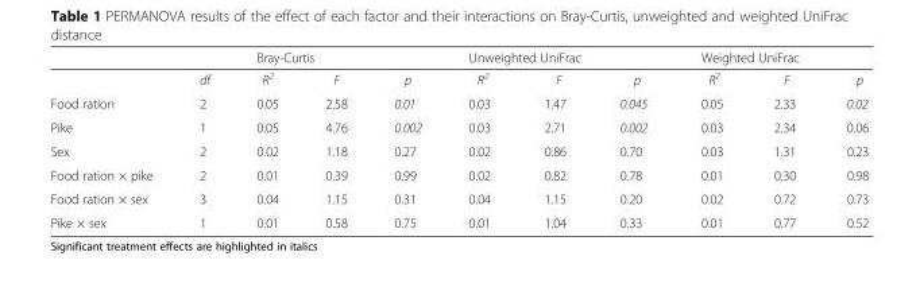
<table><thead><tr><td rowspan="2"></td><td rowspan="2">df</td><td colspan="3">Bray-Curtis</td><td colspan="3">Unweighted UniFrac</td><td colspan="3">Weighted UniFrac</td></tr><tr><td>R<sup>2</sup></td><td>F</td><td>p</td><td>R<sup>2</sup></td><td>F</td><td>p</td><td>R<sup>2</sup></td><td>F</td><td>p</td></tr></thead><tbody><tr><td>Food ration</td><td>2</td><td>0.05</td><td>2.58</td><td>0.01</td><td>0.03</td><td>1.47</td><td>0.045</td><td>0.05</td><td>2.33</td><td>0.02</td></tr><tr><td>Pike</td><td>1</td><td>0.05</td><td>4.76</td><td>0.002</td><td>0.03</td><td>2.71</td><td>0.002</td><td>0.03</td><td>2.34</td><td>0.06</td></tr><tr><td>Sex</td><td>2</td><td>0.02</td><td>1.18</td><td>0.27</td><td>0.02</td><td>0.86</td><td>0.70</td><td>0.03</td><td>1.31</td><td>0.23</td></tr><tr><td>Food ration × pike</td><td>2</td><td>0.01</td><td>0.39</td><td>0.99</td><td>0.02</td><td>0.82</td><td>0.78</td><td>0.01</td><td>0.30</td><td>0.98</td></tr><tr><td>Food ration × sex</td><td>3</td><td>0.04</td><td>1.15</td><td>0.31</td><td>0.04</td><td>1.15</td><td>0.20</td><td>0.02</td><td>0.72</td><td>0.73</td></tr><tr><td>Pike × sex</td><td>1</td><td>0.01</td><td>0.58</td><td>0.75</td><td>0.01</td><td>1.04</td><td>0.33</td><td>0.01</td><td>0.77</td><td>0.52</td></tr></tbody></table>